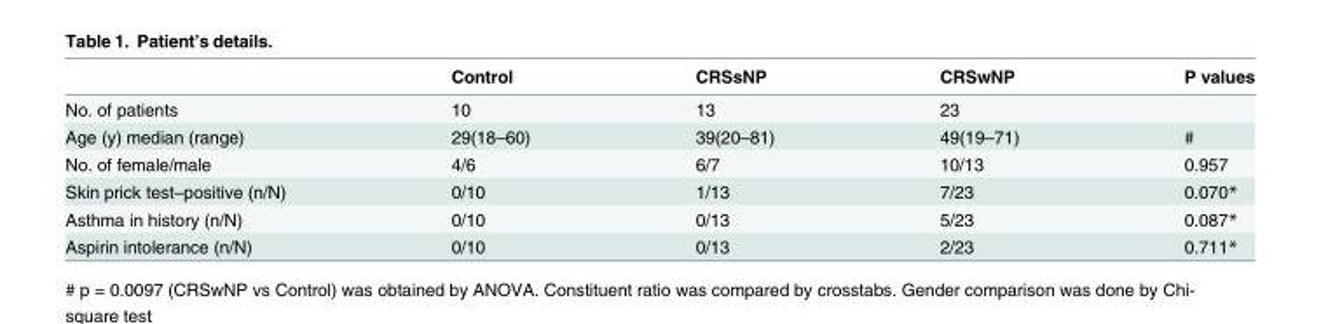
<table><thead><tr><td></td><td>Control</td><td>CRSsNP</td><td>CRSwNP</td><td>P values</td></tr></thead><tbody><tr><td>No. of patients</td><td>10</td><td>13</td><td>23</td><td></td></tr><tr><td>Age (y) median (range)</td><td>29(18–60)</td><td>39(20–81)</td><td>49(19–71)</td><td>#</td></tr><tr><td>No. of female/male</td><td>4/6</td><td>6/7</td><td>10/13</td><td>0.957</td></tr><tr><td>Skin prick test–positive (n/N)</td><td>0/10</td><td>1/13</td><td>7/23</td><td>0.070*</td></tr><tr><td>Asthma in history (n/N)</td><td>0/10</td><td>0/13</td><td>5/23</td><td>0.087*</td></tr><tr><td>Aspirin intolerance (n/N)</td><td>0/10</td><td>0/13</td><td>2/23</td><td>0.711*</td></tr></tbody></table>